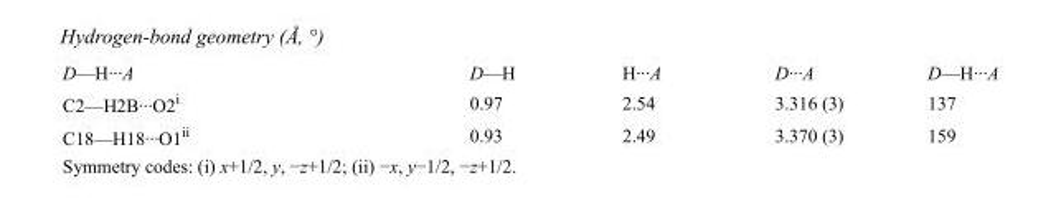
<table><tbody><tr><td>D—H···A</td><td>D—H</td><td>H···A</td><td>D···A</td><td>D—H···A</td></tr><tr><td>C2—H2B···O2<sup>i</sup></td><td>0.97</td><td>2.54</td><td>3.316 (3)</td><td>137</td></tr><tr><td>C18—H18···O1<sup>ii</sup></td><td>0.93</td><td>2.49</td><td>3.370 (3)</td><td>159</td></tr></tbody></table>